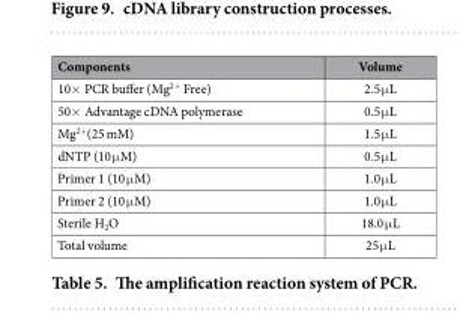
<table><thead><tr><td>Components</td><td>Volume</td></tr></thead><tbody><tr><td>10× PCR buffer (Mg<sup>2+</sup> Free)</td><td>2.5 μ L</td></tr><tr><td>50× Advantage cDNA polymerase</td><td>0.5 μ L</td></tr><tr><td>Mg<sup>2+</sup>(25 mM)</td><td>1.5 μ L</td></tr><tr><td>dNTP (10 μ M)</td><td>0.5 μ L</td></tr><tr><td>Primer 1 (10 μ M)</td><td>1.0 μ L</td></tr><tr><td>Primer 2 (10 μ M)</td><td>1.0 μ L</td></tr><tr><td>Sterile H<sub>2</sub>O</td><td>18.0 μ L</td></tr><tr><td>Total volume</td><td>25 μ L</td></tr></tbody></table>